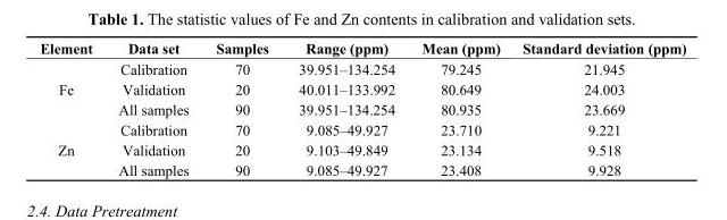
<table><thead><tr><td>Element</td><td>Data set</td><td>Samples</td><td>Range (ppm)</td><td>Mean (ppm)</td><td>Standard deviation (ppm)</td></tr></thead><tbody><tr><td rowspan="3">Fe</td><td>Calibration</td><td>70</td><td>39.951–134.254</td><td>79.245</td><td>21.945</td></tr><tr><td>Validation</td><td>20</td><td>40.011–133.992</td><td>80.649</td><td>24.003</td></tr><tr><td>All samples</td><td>90</td><td>39.951–134.254</td><td>80.935</td><td>23.669</td></tr><tr><td rowspan="3">Zn</td><td>Calibration</td><td>70</td><td>9.085–49.927</td><td>23.710</td><td>9.221</td></tr><tr><td>Validation</td><td>20</td><td>9.103–49.849</td><td>23.134</td><td>9.518</td></tr><tr><td>All samples</td><td>90</td><td>9.085–49.927</td><td>23.408</td><td>9.928</td></tr></tbody></table>